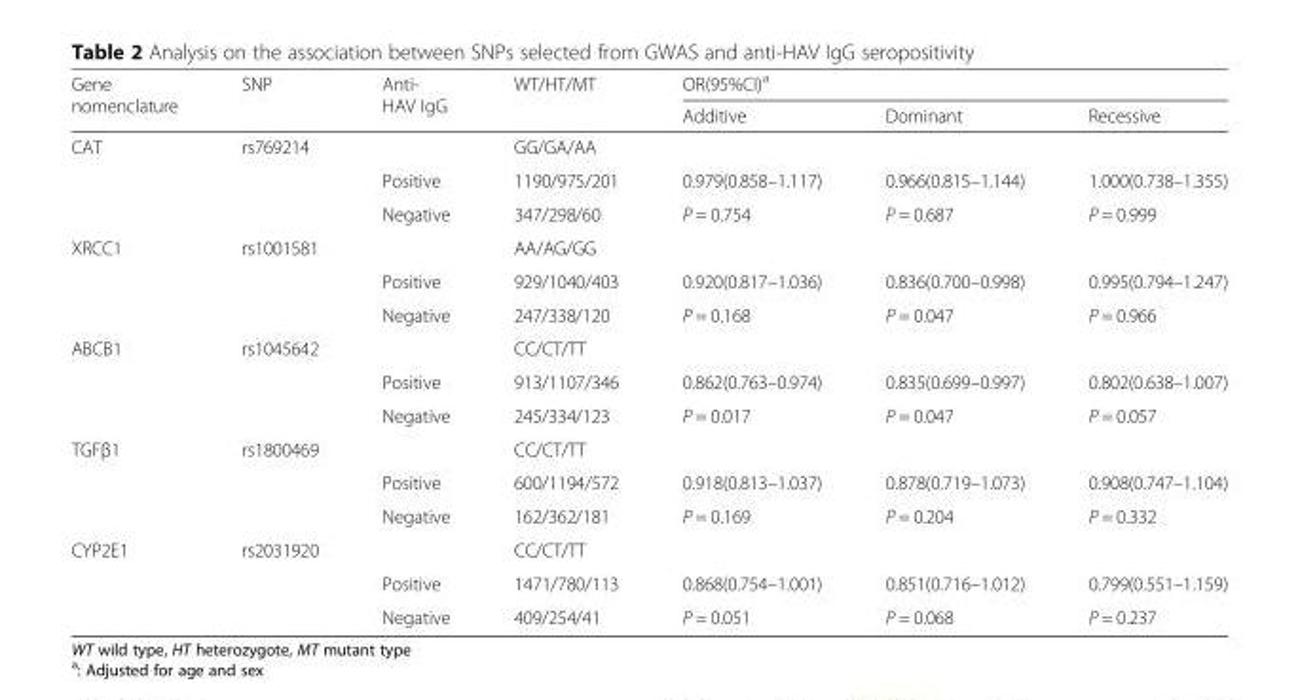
<table><thead><tr><td rowspan="2">Gene nomenclature</td><td rowspan="2">SNP</td><td rowspan="2">Anti- HAV IgG</td><td rowspan="2">WT/HT/MT</td><td colspan="3">OR(95%CI)<sup>a</sup></td></tr><tr><td>Additive</td><td>Dominant</td><td>Recessive</td></tr></thead><tbody><tr><td rowspan="3">CAT</td><td rowspan="3">rs769214</td><td></td><td>GG/GA/AA</td><td></td><td></td><td></td></tr><tr><td>Positive</td><td>1190/975/201</td><td>0.979(0.858–1.117)</td><td>0.966(0.815–1.144)</td><td>1.000(0.738–1.355)</td></tr><tr><td>Negative</td><td>347/298/60</td><td>P = 0.754</td><td>P = 0.687</td><td>P = 0.999</td></tr><tr><td rowspan="3">XRCC1</td><td rowspan="3">rs1001581</td><td></td><td>AA/AG/GG</td><td></td><td></td><td></td></tr><tr><td>Positive</td><td>929/1040/403</td><td>0.920(0.817–1.036)</td><td>0.836(0.700–0.998)</td><td>0.995(0.794–1.247)</td></tr><tr><td>Negative</td><td>247/338/120</td><td>P = 0.168</td><td>P = 0.047</td><td>P = 0.966</td></tr><tr><td rowspan="3">ABCB1</td><td rowspan="3">rs1045642</td><td></td><td>CC/CT/TT</td><td></td><td></td><td></td></tr><tr><td>Positive</td><td>913/1107/346</td><td>0.862(0.763–0.974)</td><td>0.835(0.699–0.997)</td><td>0.802(0.638–1.007)</td></tr><tr><td>Negative</td><td>245/334/123</td><td>P = 0.017</td><td>P = 0.047</td><td>P = 0.057</td></tr><tr><td rowspan="3">TGFβ1</td><td rowspan="3">rs1800469</td><td></td><td>CC/CT/TT</td><td></td><td></td><td></td></tr><tr><td>Positive</td><td>600/1194/572</td><td>0.918(0.813–1.037)</td><td>0.878(0.719–1.073)</td><td>0.908(0.747–1.104)</td></tr><tr><td>Negative</td><td>162/362/181</td><td>P = 0.169</td><td>P = 0.204</td><td>P = 0.332</td></tr><tr><td rowspan="3">CYP2E1</td><td rowspan="3">rs2031920</td><td></td><td>CC/CT/TT</td><td></td><td></td><td></td></tr><tr><td>Positive</td><td>1471/780/113</td><td>0.868(0.754–1.001)</td><td>0.851(0.716–1.012)</td><td>0.799(0.551–1.159)</td></tr><tr><td>Negative</td><td>409/254/41</td><td>P = 0.051</td><td>P = 0.068</td><td>P = 0.237</td></tr></tbody></table>